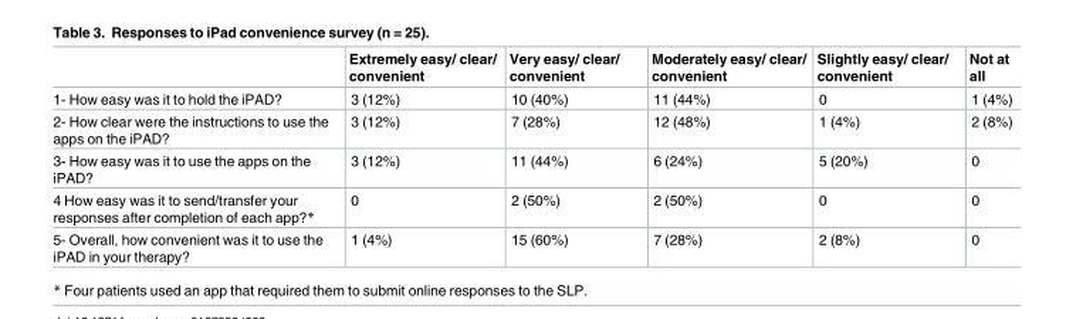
<table><thead><tr><td></td><td>Extremely easy/ clear/ convenient</td><td>Very easy/ clear/ convenient</td><td>Moderately easy/ clear/ convenient</td><td>Slightly easy/ clear/ convenient</td><td>Not at all</td></tr></thead><tbody><tr><td>1- How easy was it to hold the iPAD?</td><td>3 (12%)</td><td>10 (40%)</td><td>11 (44%)</td><td>0</td><td>1 (4%)</td></tr><tr><td>2- How clear were the instructions to use the apps on the iPAD?</td><td>3 (12%)</td><td>7 (28%)</td><td>12 (48%)</td><td>1 (4%)</td><td>2 (8%)</td></tr><tr><td>3- How easy was it to use the apps on the iPAD?</td><td>3 (12%)</td><td>11 (44%)</td><td>6 (24%)</td><td>5 (20%)</td><td>0</td></tr><tr><td>4 How easy was it to send/transfer your responses after completion of each app?*</td><td>0</td><td>2 (50%)</td><td>2 (50%)</td><td>0</td><td>0</td></tr><tr><td>5- Overall, how convenient was it to use the iPAD in your therapy?</td><td>1 (4%)</td><td>15 (60%)</td><td>7 (28%)</td><td>2 (8%)</td><td>0</td></tr></tbody></table>